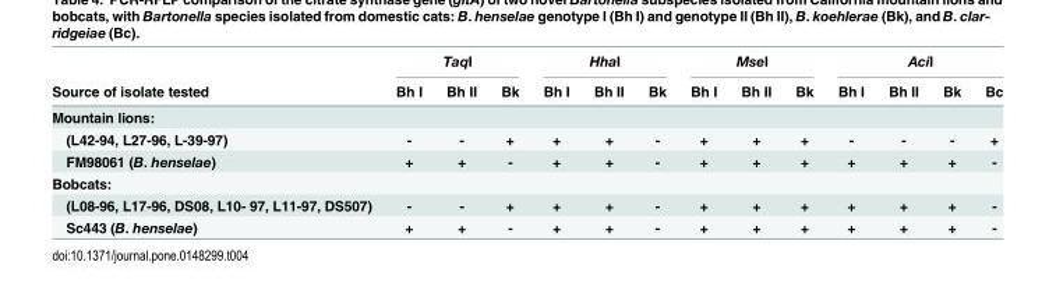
<table><thead><tr><td rowspan="2">Source of isolate tested</td><td colspan="3">TaqI</td><td colspan="3">HhaI</td><td colspan="3">MseI</td><td colspan="4">AciI</td></tr><tr><td>Bh I</td><td>Bh II</td><td>Bk</td><td>Bh I</td><td>Bh II</td><td>Bk</td><td>Bh I</td><td>Bh II</td><td>Bk</td><td>Bh I</td><td>Bh II</td><td>Bk</td><td>Bc</td></tr></thead><tbody><tr><td colspan="14">Mountain lions:</td></tr><tr><td>(L42-94, L27-96, L-39-97)</td><td>-</td><td>-</td><td>+</td><td>+</td><td>+</td><td>-</td><td>+</td><td>+</td><td>+</td><td>-</td><td>-</td><td>-</td><td>+</td></tr><tr><td>FM98061 (B. henselae)</td><td>+</td><td>+</td><td>-</td><td>+</td><td>+</td><td>-</td><td>+</td><td>+</td><td>+</td><td>+</td><td>+</td><td>+</td><td>-</td></tr><tr><td colspan="14">Bobcats:</td></tr><tr><td>(L08-96, L17-96, DS08, L10- 97, L11-97, DS507)</td><td>-</td><td>-</td><td>+</td><td>+</td><td>+</td><td>-</td><td>+</td><td>+</td><td>+</td><td>+</td><td>+</td><td>+</td><td>-</td></tr><tr><td>Sc443 (B. henselae)</td><td>+</td><td>+</td><td>-</td><td>+</td><td>+</td><td>-</td><td>+</td><td>+</td><td>+</td><td>+</td><td>+</td><td>+</td><td>-</td></tr></tbody></table>